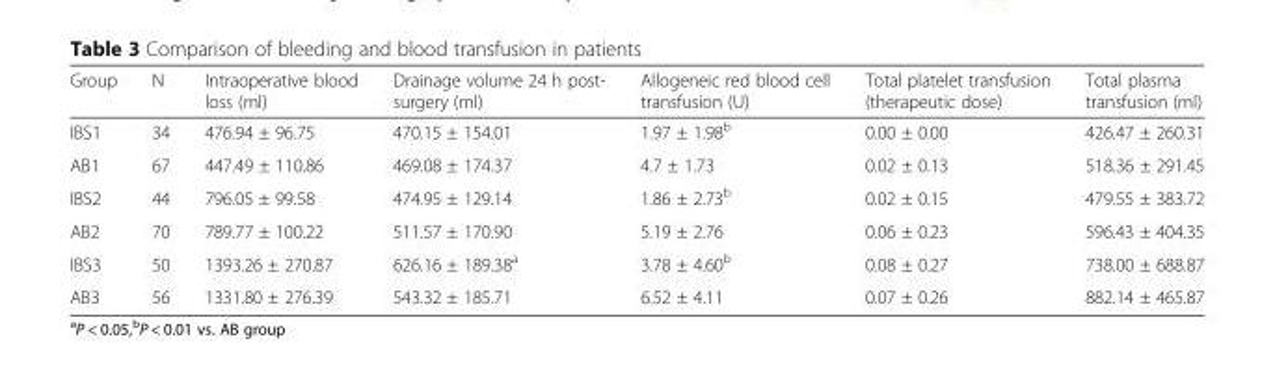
<table><thead><tr><td>Group</td><td>N</td><td>Intraoperative blood loss (ml)</td><td>Drainage volume 24 h post- surgery (ml)</td><td>Allogeneic red blood cell transfusion (U)</td><td>Total platelet transfusion (therapeutic dose)</td><td>Total plasma transfusion (ml)</td></tr></thead><tbody><tr><td>IBS1</td><td>34</td><td>476.94 ± 96.75</td><td>470.15 ± 154.01</td><td>1.97 ± 1.98<sup>b</sup></td><td>0.00 ± 0.00</td><td>426.47 ± 260.31</td></tr><tr><td>AB1</td><td>67</td><td>447.49 ± 110.86</td><td>469.08 ± 174.37</td><td>4.7 ± 1.73</td><td>0.02 ± 0.13</td><td>518.36 ± 291.45</td></tr><tr><td>IBS2</td><td>44</td><td>796.05 ± 99.58</td><td>474.95 ± 129.14</td><td>1.86 ± 2.73<sup>b</sup></td><td>0.02 ± 0.15</td><td>479.55 ± 383.72</td></tr><tr><td>AB2</td><td>70</td><td>789.77 ± 100.22</td><td>511.57 ± 170.90</td><td>5.19 ± 2.76</td><td>0.06 ± 0.23</td><td>596.43 ± 404.35</td></tr><tr><td>IBS3</td><td>50</td><td>1393.26 ± 270.87</td><td>626.16 ± 189.38<sup>a</sup></td><td>3.78 ± 4.60<sup>b</sup></td><td>0.08 ± 0.27</td><td>738.00 ± 688.87</td></tr><tr><td>AB3</td><td>56</td><td>1331.80 ± 276.39</td><td>543.32 ± 185.71</td><td>6.52 ± 4.11</td><td>0.07 ± 0.26</td><td>882.14 ± 465.87</td></tr></tbody></table>